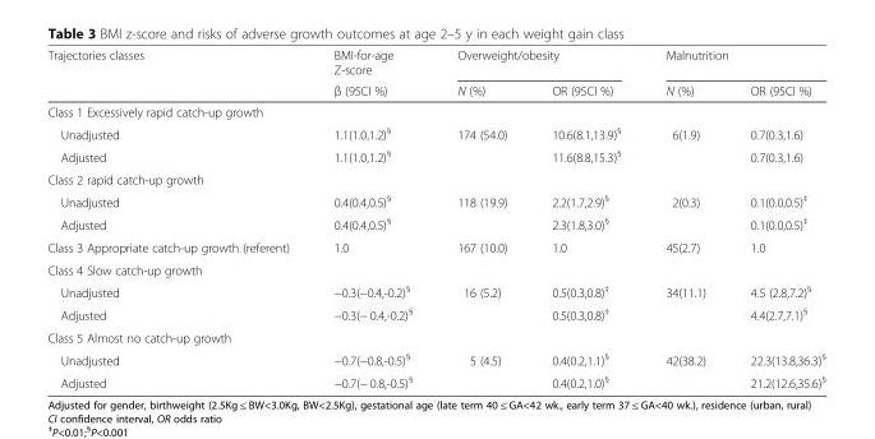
<table><thead><tr><td rowspan="2">Trajectories classes</td><td rowspan="2">BMI-for-age Z-score β (95CI %)</td><td colspan="2">Overweight/obesity</td><td colspan="2">Malnutrition</td></tr><tr><td>N (%)</td><td>OR (95CI %)</td><td>N (%)</td><td>OR (95CI %)</td></tr></thead><tbody><tr><td colspan="6">Class 1 Excessively rapid catch-up growth</td></tr><tr><td>Unadjusted</td><td>1.1(1.0,1.2)<sup>§</sup></td><td>174 (54.0)</td><td>10.6(8.1,13.9)<sup>§</sup></td><td>6(1.9)</td><td>0.7(0.3,1.6)</td></tr><tr><td>Adjusted</td><td>1.1(1.0,1.2)<sup>§</sup></td><td></td><td>11.6(8.8,15.3)<sup>§</sup></td><td></td><td>0.7(0.3,1.6)</td></tr><tr><td colspan="6">Class 2 rapid catch-up growth</td></tr><tr><td>Unadjusted</td><td>0.4(0.4,0.5)<sup>§</sup></td><td>118 (19.9)</td><td>2.2(1.7,2.9)<sup>§</sup></td><td>2(0.3)</td><td>0.1(0.0,0.5)<sup>‡</sup></td></tr><tr><td>Adjusted</td><td>0.4(0.4,0.5)<sup>§</sup></td><td></td><td>2.3(1.8,3.0)<sup>§</sup></td><td></td><td>0.1(0.0,0.5)<sup>‡</sup></td></tr><tr><td>Class 3 Appropriate catch-up growth (referent)</td><td>1.0</td><td>167 (10.0)</td><td>1.0</td><td>45(2.7)</td><td>1.0</td></tr><tr><td colspan="6">Class 4 Slow catch-up growth</td></tr><tr><td>Unadjusted</td><td>−0.3(−0.4,-0.2)<sup>§</sup></td><td>16 (5.2)</td><td>0.5(0.3,0.8)<sup>‡</sup></td><td>34(11.1)</td><td>4.5 (2.8,7.2)<sup>§</sup></td></tr><tr><td>Adjusted</td><td>−0.3(− 0.4,-0.2)<sup>§</sup></td><td></td><td>0.5(0.3,0.8)<sup>‡</sup></td><td></td><td>4.4(2.7,7.1)<sup>§</sup></td></tr><tr><td colspan="6">Class 5 Almost no catch-up growth</td></tr><tr><td>Unadjusted</td><td>−0.7(−0.8,-0.5)<sup>§</sup></td><td>5 (4.5)</td><td>0.4(0.2,1.1)<sup>§</sup></td><td>42(38.2)</td><td>22.3(13.8,36.3)<sup>§</sup></td></tr><tr><td>Adjusted</td><td>−0.7(− 0.8,-0.5)<sup>§</sup></td><td></td><td>0.4(0.2,1.0)<sup>§</sup></td><td></td><td>21.2(12.6,35.6)<sup>§</sup></td></tr></tbody></table>